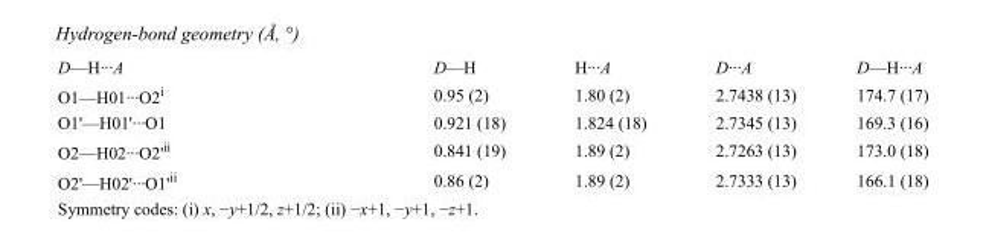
<table><tbody><tr><td>D—H···A</td><td>D—H</td><td>H···A</td><td>D···A</td><td>D—H···A</td></tr><tr><td>O1—H01···O2<sup>i</sup></td><td>0.95 (2)</td><td>1.80 (2)</td><td>2.7438 (13)</td><td>174.7 (17)</td></tr><tr><td>O1&#x27;—H01&#x27;···O1</td><td>0.921 (18)</td><td>1.824 (18)</td><td>2.7345 (13)</td><td>169.3 (16)</td></tr><tr><td>O2—H02···O2&#x27;<sup>ii</sup></td><td>0.841 (19)</td><td>1.89 (2)</td><td>2.7263 (13)</td><td>173.0 (18)</td></tr><tr><td>O2&#x27;—H02&#x27;···O1&#x27;<sup>ii</sup></td><td>0.86 (2)</td><td>1.89 (2)</td><td>2.7333 (13)</td><td>166.1 (18)</td></tr></tbody></table>